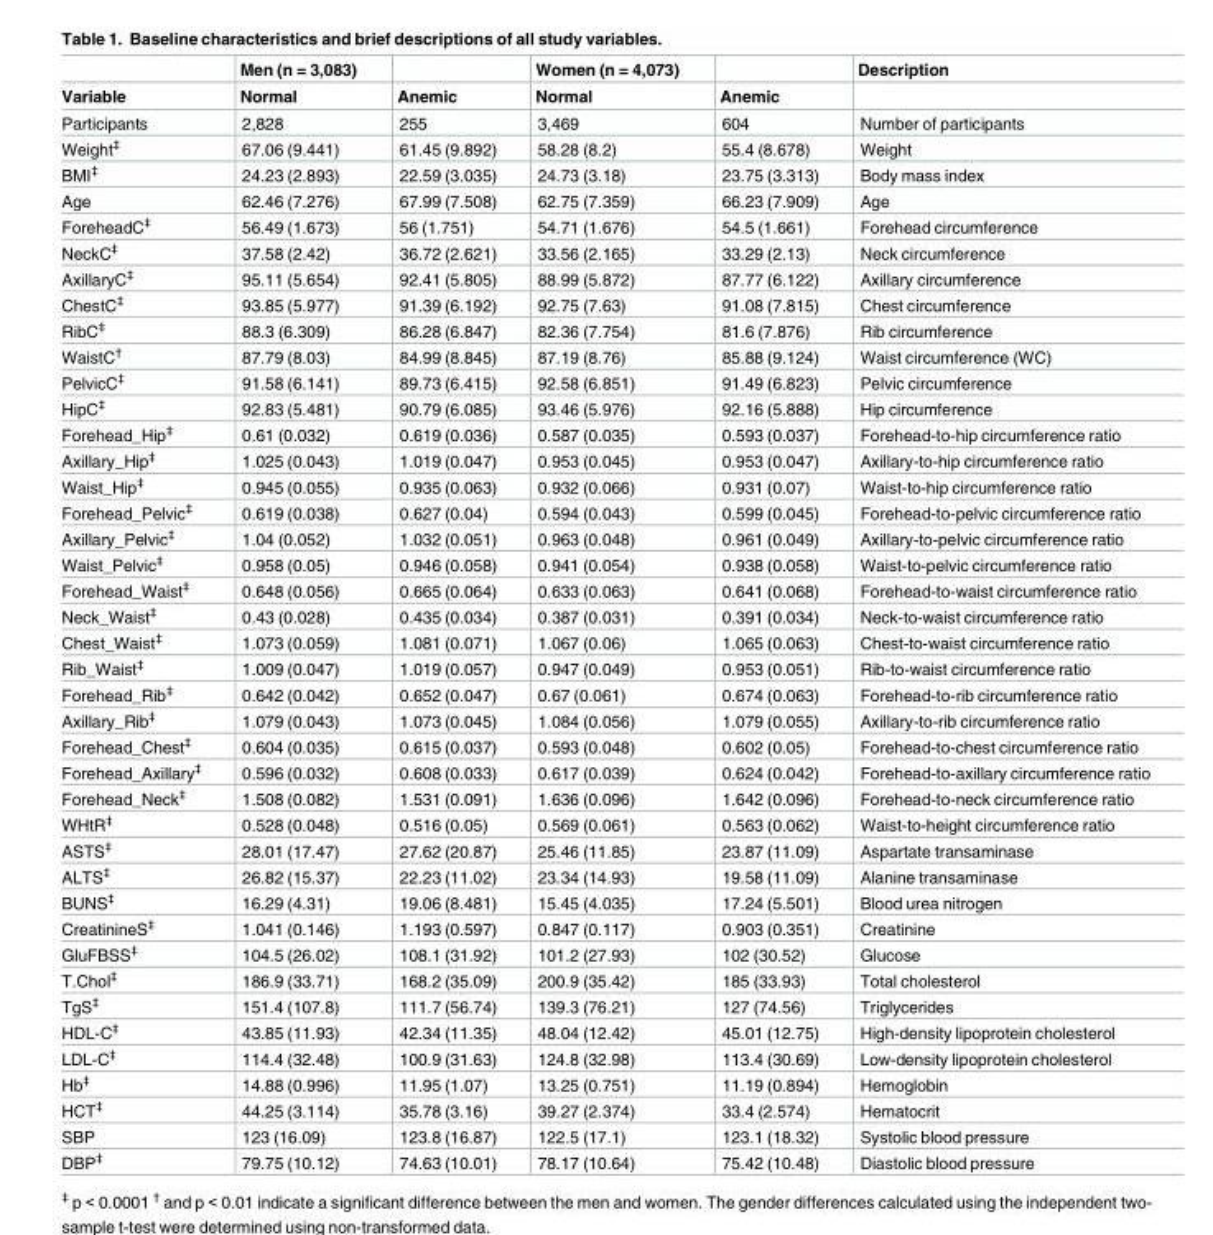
<table><thead><tr><td rowspan="2">Variable</td><td rowspan="2">Men (n = 3,083) Normal</td><td rowspan="2">Anemic</td><td rowspan="2">Women (n = 4,073) Normal</td><td rowspan="2">Anemic</td><td rowspan="2">Description</td></tr><tr></tr></thead><tbody><tr><td>Participants</td><td>2,828</td><td>255</td><td>3,469</td><td>604</td><td>Number of participants</td></tr><tr><td>Weight<sup>‡</sup></td><td>67.06 (9.441)</td><td>61.45 (9.892)</td><td>58.28 (8.2)</td><td>55.4 (8.678)</td><td>Weight</td></tr><tr><td>BMI<sup>‡</sup></td><td>24.23 (2.893)</td><td>22.59 (3.035)</td><td>24.73 (3.18)</td><td>23.75 (3.313)</td><td>Body mass index</td></tr><tr><td>Age</td><td>62.46 (7.276)</td><td>67.99 (7.508)</td><td>62.75 (7.359)</td><td>66.23 (7.909)</td><td>Age</td></tr><tr><td>ForeheadC<sup>‡</sup></td><td>56.49 (1.673)</td><td>56 (1.751)</td><td>54.71 (1.676)</td><td>54.5 (1.661)</td><td>Forehead circumference</td></tr><tr><td>NeckC<sup>‡</sup></td><td>37.58 (2.42)</td><td>36.72 (2.621)</td><td>33.56 (2.165)</td><td>33.29 (2.13)</td><td>Neck circumference</td></tr><tr><td>AxillaryC<sup>‡</sup></td><td>95.11 (5.654)</td><td>92.41 (5.805)</td><td>88.99 (5.872)</td><td>87.77 (6.122)</td><td>Axillary circumference</td></tr><tr><td>ChestC<sup>‡</sup></td><td>93.85 (5.977)</td><td>91.39 (6.192)</td><td>92.75 (7.63)</td><td>91.08 (7.815)</td><td>Chest circumference</td></tr><tr><td>RibC<sup>‡</sup></td><td>88.3 (6.309)</td><td>86.28 (6.847)</td><td>82.36 (7.754)</td><td>81.6 (7.876)</td><td>Rib circumference</td></tr><tr><td>WaistC<sup>†</sup></td><td>87.79 (8.03)</td><td>84.99 (8.845)</td><td>87.19 (8.76)</td><td>85.88 (9.124)</td><td>Waist circumference (WC)</td></tr><tr><td>PelvicC<sup>‡</sup></td><td>91.58 (6.141)</td><td>89.73 (6.415)</td><td>92.58 (6.851)</td><td>91.49 (6.823)</td><td>Pelvic circumference</td></tr><tr><td>HipC<sup>‡</sup></td><td>92.83 (5.481)</td><td>90.79 (6.085)</td><td>93.46 (5.976)</td><td>92.16 (5.888)</td><td>Hip circumference</td></tr><tr><td>Forehead_Hip<sup>‡</sup></td><td>0.61 (0.032)</td><td>0.619 (0.036)</td><td>0.587 (0.035)</td><td>0.593 (0.037)</td><td>Forehead-to-hip circumference ratio</td></tr><tr><td>Axillary_Hip<sup>‡</sup></td><td>1.025 (0.043)</td><td>1.019 (0.047)</td><td>0.953 (0.045)</td><td>0.953 (0.047)</td><td>Axillary-to-hip circumference ratio</td></tr><tr><td>Waist_Hip<sup>‡</sup></td><td>0.945 (0.055)</td><td>0.935 (0.063)</td><td>0.932 (0.066)</td><td>0.931 (0.07)</td><td>Waist-to-hip circumference ratio</td></tr><tr><td>Forehead_Pelvic<sup>‡</sup></td><td>0.619 (0.038)</td><td>0.627 (0.04)</td><td>0.594 (0.043)</td><td>0.599 (0.045)</td><td>Forehead-to-pelvic circumference ratio</td></tr><tr><td>Axillary_Pelvic<sup>‡</sup></td><td>1.04 (0.052)</td><td>1.032 (0.051)</td><td>0.963 (0.048)</td><td>0.961 (0.049)</td><td>Axillary-to-pelvic circumference ratio</td></tr><tr><td>Waist_Pelvic<sup>‡</sup></td><td>0.958 (0.05)</td><td>0.946 (0.058)</td><td>0.941 (0.054)</td><td>0.938 (0.058)</td><td>Waist-to-pelvic circumference ratio</td></tr><tr><td>Forehead_Waist<sup>‡</sup></td><td>0.648 (0.056)</td><td>0.665 (0.064)</td><td>0.633 (0.063)</td><td>0.641 (0.068)</td><td>Forehead-to-waist circumference ratio</td></tr><tr><td>Neck_Waist<sup>‡</sup></td><td>0.43 (0.028)</td><td>0.435 (0.034)</td><td>0.387 (0.031)</td><td>0.391 (0.034)</td><td>Neck-to-waist circumference ratio</td></tr><tr><td>Chest_Waist<sup>‡</sup></td><td>1.073 (0.059)</td><td>1.081 (0.071)</td><td>1.067 (0.06)</td><td>1.065 (0.063)</td><td>Chest-to-waist circumference ratio</td></tr><tr><td>Rib_Waist<sup>‡</sup></td><td>1.009 (0.047)</td><td>1.019 (0.057)</td><td>0.947 (0.049)</td><td>0.953 (0.051)</td><td>Rib-to-waist circumference ratio</td></tr><tr><td>Forehead_Rib<sup>‡</sup></td><td>0.642 (0.042)</td><td>0.652 (0.047)</td><td>0.67 (0.061)</td><td>0.674 (0.063)</td><td>Forehead-to-rib circumference ratio</td></tr><tr><td>Axillary_Rib<sup>‡</sup></td><td>1.079 (0.043)</td><td>1.073 (0.045)</td><td>1.084 (0.056)</td><td>1.079 (0.055)</td><td>Axillary-to-rib circumference ratio</td></tr><tr><td>Forehead_Chest<sup>‡</sup></td><td>0.604 (0.035)</td><td>0.615 (0.037)</td><td>0.593 (0.048)</td><td>0.602 (0.05)</td><td>Forehead-to-chest circumference ratio</td></tr><tr><td>Forehead_Axillary<sup>‡</sup></td><td>0.596 (0.032)</td><td>0.608 (0.033)</td><td>0.617 (0.039)</td><td>0.624 (0.042)</td><td>Forehead-to-axillary circumference ratio</td></tr><tr><td>Forehead_Neck<sup>‡</sup></td><td>1.508 (0.082)</td><td>1.531 (0.091)</td><td>1.636 (0.096)</td><td>1.642 (0.096)</td><td>Forehead-to-neck circumference ratio</td></tr><tr><td>WHtR<sup>‡</sup></td><td>0.528 (0.048)</td><td>0.516 (0.05)</td><td>0.569 (0.061)</td><td>0.563 (0.062)</td><td>Waist-to-height circumference ratio</td></tr><tr><td>ASTS<sup>‡</sup></td><td>28.01 (17.47)</td><td>27.62 (20.87)</td><td>25.46 (11.85)</td><td>23.87 (11.09)</td><td>Aspartate transaminase</td></tr><tr><td>ALTS<sup>‡</sup></td><td>26.82 (15.37)</td><td>22.23 (11.02)</td><td>23.34 (14.93)</td><td>19.58 (11.09)</td><td>Alanine transaminase</td></tr><tr><td>BUNS<sup>‡</sup></td><td>16.29 (4.31)</td><td>19.06 (8.481)</td><td>15.45 (4.035)</td><td>17.24 (5.501)</td><td>Blood urea nitrogen</td></tr><tr><td>CreatinineS<sup>‡</sup></td><td>1.041 (0.146)</td><td>1.193 (0.597)</td><td>0.847 (0.117)</td><td>0.903 (0.351)</td><td>Creatinine</td></tr><tr><td>GluFBSS<sup>‡</sup></td><td>104.5 (26.02)</td><td>108.1 (31.92)</td><td>101.2 (27.93)</td><td>102 (30.52)</td><td>Glucose</td></tr><tr><td>T.Chol<sup>‡</sup></td><td>186.9 (33.71)</td><td>168.2 (35.09)</td><td>200.9 (35.42)</td><td>185 (33.93)</td><td>Total cholesterol</td></tr><tr><td>TgS<sup>‡</sup></td><td>151.4 (107.8)</td><td>111.7 (56.74)</td><td>139.3 (76.21)</td><td>127 (74.56)</td><td>Triglycerides</td></tr><tr><td>HDL-C<sup>‡</sup></td><td>43.85 (11.93)</td><td>42.34 (11.35)</td><td>48.04 (12.42)</td><td>45.01 (12.75)</td><td>High-density lipoprotein cholesterol</td></tr><tr><td>LDL-C<sup>‡</sup></td><td>114.4 (32.48)</td><td>100.9 (31.63)</td><td>124.8 (32.98)</td><td>113.4 (30.69)</td><td>Low-density lipoprotein cholesterol</td></tr><tr><td>Hb<sup>‡</sup></td><td>14.88 (0.996)</td><td>11.95 (1.07)</td><td>13.25 (0.751)</td><td>11.19 (0.894)</td><td>Hemoglobin</td></tr><tr><td>HCT<sup>‡</sup></td><td>44.25 (3.114)</td><td>35.78 (3.16)</td><td>39.27 (2.374)</td><td>33.4 (2.574)</td><td>Hematocrit</td></tr><tr><td>SBP</td><td>123 (16.09)</td><td>123.8 (16.87)</td><td>122.5 (17.1)</td><td>123.1 (18.32)</td><td>Systolic blood pressure</td></tr><tr><td>DBP<sup>‡</sup></td><td>79.75 (10.12)</td><td>74.63 (10.01)</td><td>78.17 (10.64)</td><td>75.42 (10.48)</td><td>Diastolic blood pressure</td></tr></tbody></table>